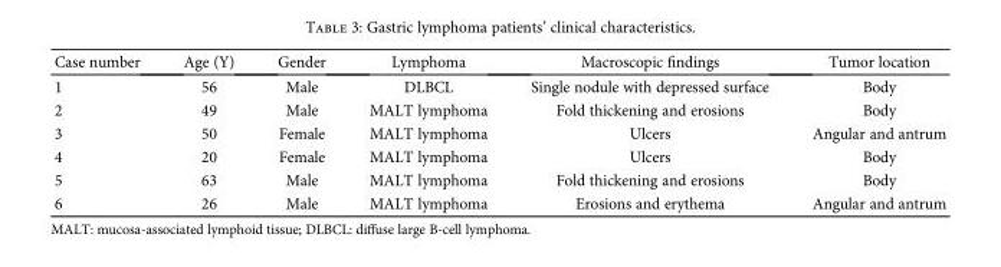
<table><thead><tr><td>Case number</td><td>Age (Y)</td><td>Gender</td><td>Lymphoma</td><td>Macroscopic findings</td><td>Tumor location</td></tr></thead><tbody><tr><td>1</td><td>56</td><td>Male</td><td>DLBCL</td><td>Single nodule with depressed surface</td><td>Body</td></tr><tr><td>2</td><td>49</td><td>Male</td><td>MALT lymphoma</td><td>Fold thickening and erosions</td><td>Body</td></tr><tr><td>3</td><td>50</td><td>Female</td><td>MALT lymphoma</td><td>Ulcers</td><td>Angular and antrum</td></tr><tr><td>4</td><td>20</td><td>Female</td><td>MALT lymphoma</td><td>Ulcers</td><td>Body</td></tr><tr><td>5</td><td>63</td><td>Male</td><td>MALT lymphoma</td><td>Fold thickening and erosions</td><td>Body</td></tr><tr><td>6</td><td>26</td><td>Male</td><td>MALT lymphoma</td><td>Erosions and erythema</td><td>Angular and antrum</td></tr></tbody></table>